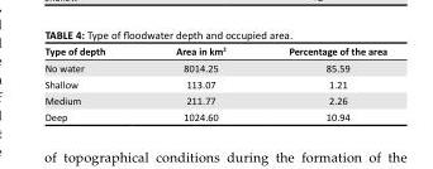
<table><thead><tr><td>Type of depth</td><td>Area in km<sup>2</sup></td><td>Percentage of the area</td></tr></thead><tbody><tr><td>No water</td><td>8014.25</td><td>85.59</td></tr><tr><td>Shallow</td><td>113.07</td><td>1.21</td></tr><tr><td>Medium</td><td>211.77</td><td>2.26</td></tr><tr><td>Deep</td><td>1024.60</td><td>10.94</td></tr></tbody></table>